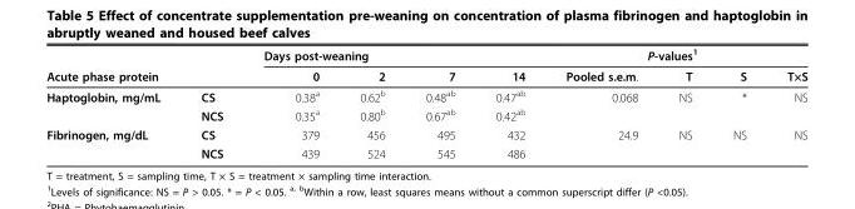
<table><thead><tr><td rowspan="2">Acute phase protein</td><td rowspan="2"></td><td colspan="4">Days post-weaning</td><td rowspan="2">Pooled s.e.m.</td><td colspan="3">P-values<sup>1</sup></td></tr><tr><td>0</td><td>2</td><td>7</td><td>14</td><td>T</td><td>S</td><td>T×S</td></tr></thead><tbody><tr><td rowspan="2">Haptoglobin, mg/mL</td><td>CS</td><td>0.38<sup>a</sup></td><td>0.62<sup>b</sup></td><td>0.48<sup>ab</sup></td><td>0.47<sup>ab</sup></td><td>0.068</td><td>NS</td><td>*</td><td>NS</td></tr><tr><td>NCS</td><td>0.35<sup>a</sup></td><td>0.80<sup>b</sup></td><td>0.67<sup>ab</sup></td><td>0.42<sup>ab</sup></td><td></td><td></td><td></td><td></td></tr><tr><td rowspan="2">Fibrinogen, mg/dL</td><td>CS</td><td>379</td><td>456</td><td>495</td><td>432</td><td>24.9</td><td>NS</td><td>NS</td><td>NS</td></tr><tr><td>NCS</td><td>439</td><td>524</td><td>545</td><td>486</td><td></td><td></td><td></td><td></td></tr></tbody></table>